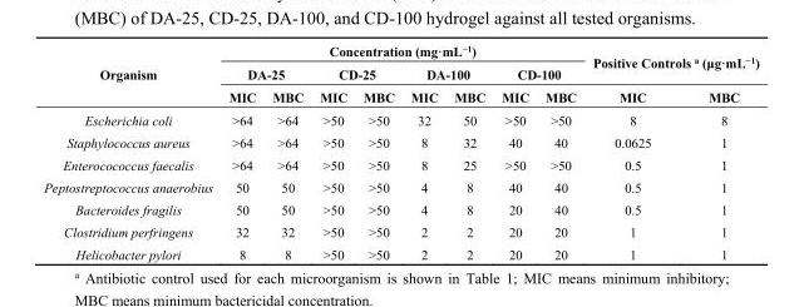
<table><thead><tr><td rowspan="3">Organism</td><td colspan="8">Concentration (mg·mL<sup>−1</sup>)</td><td rowspan="2" colspan="2">Positive Controls <sup>a</sup> (μg·mL<sup>−1</sup>)</td></tr><tr><td colspan="2">DA-25</td><td colspan="2">CD-25</td><td colspan="2">DA-100</td><td colspan="2">CD-100</td></tr><tr><td>MIC</td><td>MBC</td><td>MIC</td><td>MBC</td><td>MIC</td><td>MBC</td><td>MIC</td><td>MBC</td><td>MIC</td><td>MBC</td></tr></thead><tbody><tr><td>Escherichia coli</td><td>&gt;64</td><td>&gt;64</td><td>&gt;50</td><td>&gt;50</td><td>32</td><td>50</td><td>&gt;50</td><td>&gt;50</td><td>8</td><td>8</td></tr><tr><td>Staphylococcus aureus</td><td>&gt;64</td><td>&gt;64</td><td>&gt;50</td><td>&gt;50</td><td>8</td><td>32</td><td>40</td><td>40</td><td>0.0625</td><td>1</td></tr><tr><td>Enterocococcus faecalis</td><td>&gt;64</td><td>&gt;64</td><td>&gt;50</td><td>&gt;50</td><td>8</td><td>25</td><td>&gt;50</td><td>&gt;50</td><td>0.5</td><td>1</td></tr><tr><td>Peptostreptococcus anaerobius</td><td>50</td><td>50</td><td>&gt;50</td><td>&gt;50</td><td>4</td><td>8</td><td>40</td><td>40</td><td>0.5</td><td>1</td></tr><tr><td>Bacteroides fragilis</td><td>50</td><td>50</td><td>&gt;50</td><td>&gt;50</td><td>4</td><td>8</td><td>20</td><td>40</td><td>0.5</td><td>1</td></tr><tr><td>Clostridium perfringens</td><td>32</td><td>32</td><td>&gt;50</td><td>&gt;50</td><td>2</td><td>2</td><td>20</td><td>20</td><td>1</td><td>1</td></tr><tr><td>Helicobacter pylori</td><td>8</td><td>8</td><td>&gt;50</td><td>&gt;50</td><td>2</td><td>2</td><td>20</td><td>20</td><td>1</td><td>1</td></tr></tbody></table>